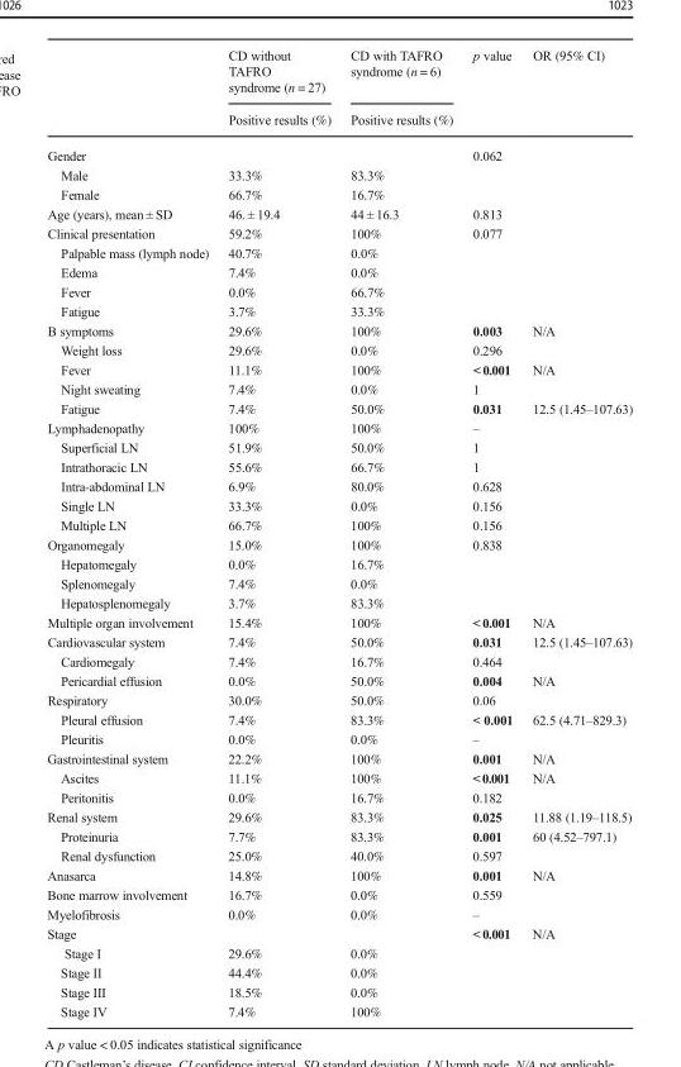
<table><thead><tr><td rowspan="2"></td><td rowspan="2">CD without TAFRO syndrome (n = 27) Positive results (%)</td><td rowspan="2">CD with TAFRO syndrome (n = 6) Positive results (%)</td><td rowspan="2">p value</td><td rowspan="2">OR (95% CI)</td></tr><tr></tr></thead><tbody><tr><td>Gender</td><td></td><td></td><td>0.062</td><td></td></tr><tr><td>Male</td><td>33.3%</td><td>83.3%</td><td></td><td></td></tr><tr><td>Female</td><td>66.7%</td><td>16.7%</td><td></td><td></td></tr><tr><td>Age (years), mean ± SD</td><td>46. ± 19.4</td><td>44 ± 16.3</td><td>0.813</td><td></td></tr><tr><td>Clinical presentation</td><td>59.2%</td><td>100%</td><td>0.077</td><td></td></tr><tr><td>Palpable mass (lymph node)</td><td>40.7%</td><td>0.0%</td><td></td><td></td></tr><tr><td>Edema</td><td>7.4%</td><td>0.0%</td><td></td><td></td></tr><tr><td>Fever</td><td>0.0%</td><td>66.7%</td><td></td><td></td></tr><tr><td>Fatigue</td><td>3.7%</td><td>33.3%</td><td></td><td></td></tr><tr><td>B symptoms</td><td>29.6%</td><td>100%</td><td>0.003</td><td>N/A</td></tr><tr><td>Weight loss</td><td>29.6%</td><td>0.0%</td><td>0.296</td><td></td></tr><tr><td>Fever</td><td>11.1%</td><td>100%</td><td>&lt; 0.001</td><td>N/A</td></tr><tr><td>Night sweating</td><td>7.4%</td><td>0.0%</td><td>1</td><td></td></tr><tr><td>Fatigue</td><td>7.4%</td><td>50.0%</td><td>0.031</td><td>12.5 (1.45–107.63)</td></tr><tr><td>Lymphadenopathy</td><td>100%</td><td>100%</td><td>–</td><td></td></tr><tr><td>Superficial LN</td><td>51.9%</td><td>50.0%</td><td>1</td><td></td></tr><tr><td>Intrathoracic LN</td><td>55.6%</td><td>66.7%</td><td>1</td><td></td></tr><tr><td>Intra-abdominal LN</td><td>6.9%</td><td>80.0%</td><td>0.628</td><td></td></tr><tr><td>Single LN</td><td>33.3%</td><td>0.0%</td><td>0.156</td><td></td></tr><tr><td>Multiple LN</td><td>66.7%</td><td>100%</td><td>0.156</td><td></td></tr><tr><td>Organomegaly</td><td>15.0%</td><td>100%</td><td>0.838</td><td></td></tr><tr><td>Hepatomegaly</td><td>0.0%</td><td>16.7%</td><td></td><td></td></tr><tr><td>Splenomegaly</td><td>7.4%</td><td>0.0%</td><td></td><td></td></tr><tr><td>Hepatosplenomegaly</td><td>3.7%</td><td>83.3%</td><td></td><td></td></tr><tr><td>Multiple organ involvement</td><td>15.4%</td><td>100%</td><td>&lt; 0.001</td><td>N/A</td></tr><tr><td>Cardiovascular system</td><td>7.4%</td><td>50.0%</td><td>0.031</td><td>12.5 (1.45–107.63)</td></tr><tr><td>Cardiomegaly</td><td>7.4%</td><td>16.7%</td><td>0.464</td><td></td></tr><tr><td>Pericardial effusion</td><td>0.0%</td><td>50.0%</td><td>0.004</td><td>N/A</td></tr><tr><td>Respiratory</td><td>30.0%</td><td>50.0%</td><td>0.06</td><td></td></tr><tr><td>Pleural effusion</td><td>7.4%</td><td>83.3%</td><td>&lt; 0.001</td><td>62.5 (4.71–829.3)</td></tr><tr><td>Pleuritis</td><td>0.0%</td><td>0.0%</td><td>–</td><td></td></tr><tr><td>Gastrointestinal system</td><td>22.2%</td><td>100%</td><td>0.001</td><td>N/A</td></tr><tr><td>Ascites</td><td>11.1%</td><td>100%</td><td>&lt; 0.001</td><td>N/A</td></tr><tr><td>Peritonitis</td><td>0.0%</td><td>16.7%</td><td>0.182</td><td></td></tr><tr><td>Renal system</td><td>29.6%</td><td>83.3%</td><td>0.025</td><td>11.88 (1.19–118.5)</td></tr><tr><td>Proteinuria</td><td>7.7%</td><td>83.3%</td><td>0.001</td><td>60 (4.52–797.1)</td></tr><tr><td>Renal dysfunction</td><td>25.0%</td><td>40.0%</td><td>0.597</td><td></td></tr><tr><td>Anasarca</td><td>14.8%</td><td>100%</td><td>0.001</td><td>N/A</td></tr><tr><td>Bone marrow involvement</td><td>16.7%</td><td>0.0%</td><td>0.559</td><td></td></tr><tr><td>Myelofibrosis</td><td>0.0%</td><td>0.0%</td><td>–</td><td></td></tr><tr><td>Stage</td><td></td><td></td><td>&lt; 0.001</td><td>N/A</td></tr><tr><td>Stage I</td><td>29.6%</td><td>0.0%</td><td></td><td></td></tr><tr><td>Stage II</td><td>44.4%</td><td>0.0%</td><td></td><td></td></tr><tr><td>Stage III</td><td>18.5%</td><td>0.0%</td><td></td><td></td></tr><tr><td>Stage IV</td><td>7.4%</td><td>100%</td><td></td><td></td></tr></tbody></table>